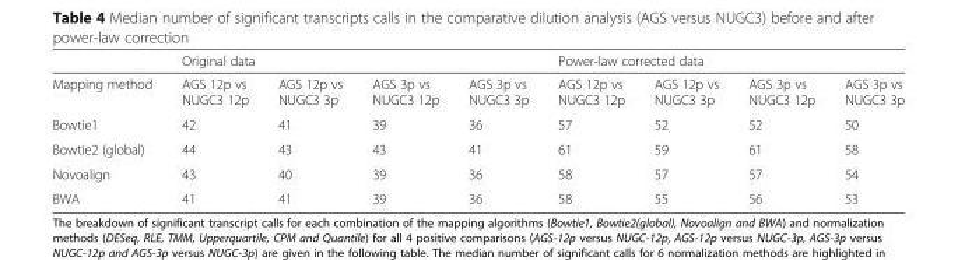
<table><thead><tr><td rowspan="2">Mapping method</td><td colspan="4">Original data</td><td colspan="4">Power-law corrected data</td></tr><tr><td>AGS 12p vs NUGC3 12p</td><td>AGS 12p vs NUGC3 3p</td><td>AGS 3p vs NUGC3 12p</td><td>AGS 3p vs NUGC3 3p</td><td>AGS 12p vs NUGC3 12p</td><td>AGS 12p vs NUGC3 3p</td><td>AGS 3p vs NUGC3 12p</td><td>AGS 3p vs NUGC3 3p</td></tr></thead><tbody><tr><td>Bowtie1</td><td>42</td><td>41</td><td>39</td><td>36</td><td>57</td><td>52</td><td>52</td><td>50</td></tr><tr><td>Bowtie2 (global)</td><td>44</td><td>43</td><td>43</td><td>41</td><td>61</td><td>59</td><td>61</td><td>58</td></tr><tr><td>Novoalign</td><td>43</td><td>40</td><td>39</td><td>36</td><td>58</td><td>57</td><td>57</td><td>54</td></tr><tr><td>BWA</td><td>41</td><td>41</td><td>39</td><td>36</td><td>58</td><td>55</td><td>56</td><td>53</td></tr></tbody></table>